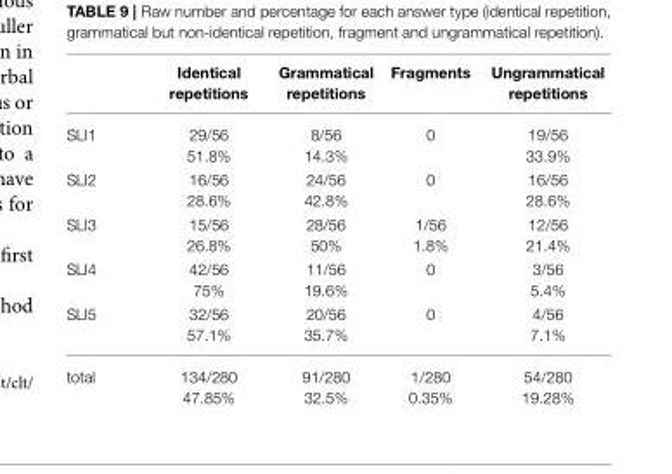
<table><thead><tr><td></td><td>Identical repetitions</td><td>Grammatical repetitions</td><td>Fragments</td><td>Ungrammatical repetitions</td></tr></thead><tbody><tr><td>SLI1</td><td>29/56 51.8%</td><td>8/56 14.3%</td><td>0</td><td>19/56 33.9%</td></tr><tr><td>SLI2</td><td>16/56 28.6%</td><td>24/56 42.8%</td><td>0</td><td>16/56 28.6%</td></tr><tr><td>SLI3</td><td>15/56 26.8%</td><td>28/56 50%</td><td>1/56 1.8%</td><td>12/56 21.4%</td></tr><tr><td>SLI4</td><td>42/56 75%</td><td>11/56 19.6%</td><td>0</td><td>3/56 5.4%</td></tr><tr><td>SLI5</td><td>32/56 57.1%</td><td>20/56 35.7%</td><td>0</td><td>4/56 7.1%</td></tr><tr><td>total</td><td>134/280 47.85%</td><td>91/280 32.5%</td><td>1/280 0.35%</td><td>54/280 19.28%</td></tr></tbody></table>